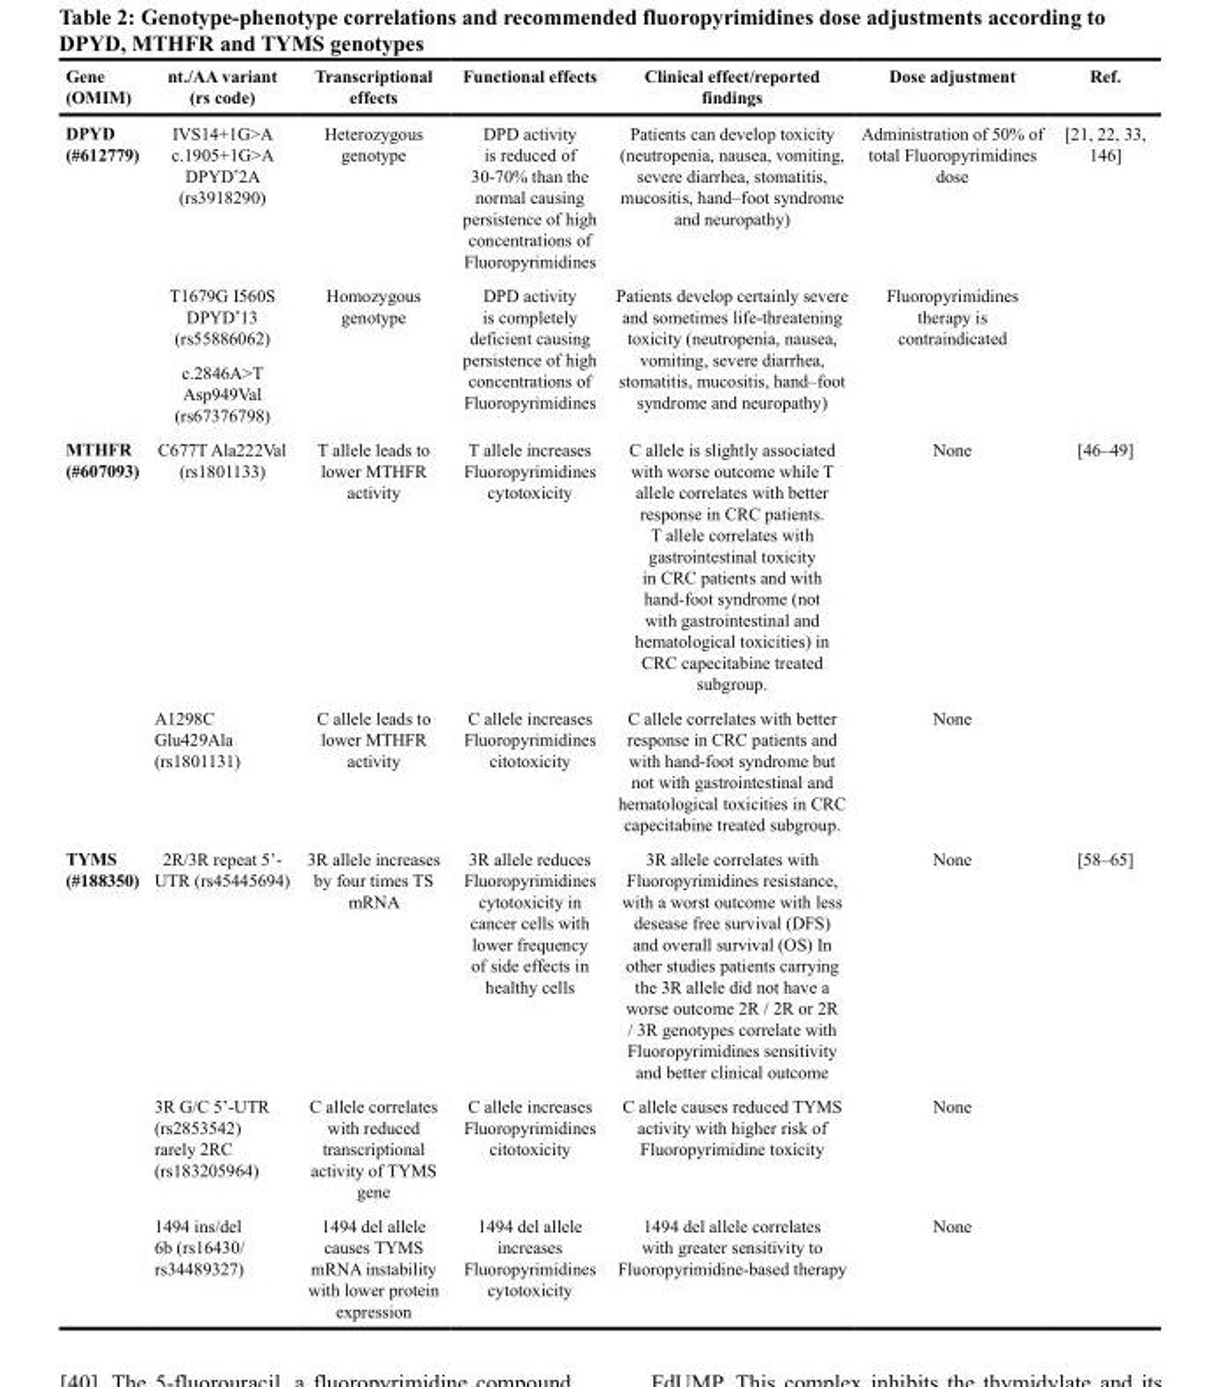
<table><thead><tr><td>Gene (OMIM)</td><td>nt./AA variant (rs code)</td><td>Transcriptional effects</td><td>Functional effects</td><td>Clinical effect/reported findings</td><td>Dose adjustment</td><td>Ref.</td></tr></thead><tbody><tr><td rowspan="3">DPYD (#612779)</td><td>IVS14+1G&gt;A c.1905+1G&gt;A DPYD*2A (rs3918290)</td><td>Heterozygous genotype</td><td>DPD activity is reduced of 30-70% than the normal causing persistence of high concentrations of Fluoropyrimidines</td><td>Patients can develop toxicity (neutropenia, nausea, vomiting, severe diarrhea, stomatitis, mucositis, hand–foot syndrome and neuropathy)</td><td>Administration of 50% of total Fluoropyrimidines dose</td><td rowspan="3">[21, 22, 33, 146]</td></tr><tr><td>T1679G I560S DPYD*13 (rs55886062)</td><td rowspan="2">Homozygous genotype</td><td rowspan="2">DPD activity is completely deficient causing persistence of high concentrations of Fluoropyrimidines</td><td rowspan="2">Patients develop certainly severe and sometimes life-threatening toxicity (neutropenia, nausea, vomiting, severe diarrhea, stomatitis, mucositis, hand–foot syndrome and neuropathy)</td><td rowspan="2">Fluoropyrimidines therapy is contraindicated</td></tr><tr><td>c.2846A&gt;T Asp949Val (rs67376798)</td></tr><tr><td rowspan="2">MTHFR (#607093)</td><td>C677T Ala222Val (rs1801133)</td><td>T allele leads to lower MTHFR activity</td><td>T allele increases Fluoropyrimidines cytotoxicity</td><td>C allele is slightly associated with worse outcome while T allele correlates with better response in CRC patients. T allele correlates with gastrointestinal toxicity in CRC patients and with hand-foot syndrome (not with gastrointestinal and hematological toxicities) in CRC capecitabine treated subgroup.</td><td>None</td><td rowspan="2">[46–49]</td></tr><tr><td>A1298C Glu429Ala (rs1801131)</td><td>C allele leads to lower MTHFR activity</td><td>C allele increases Fluoropyrimidines citotoxicity</td><td>C allele correlates with better response in CRC patients and with hand-foot syndrome but not with gastrointestinal and hematological toxicities in CRC capecitabine treated subgroup.</td><td>None</td></tr><tr><td rowspan="3">TYMS (#188350)</td><td>2R/3R repeat 5’- UTR (rs45445694)</td><td>3R allele increases by four times TS mRNA</td><td>3R allele reduces Fluoropyrimidines cytotoxicity in cancer cells with lower frequency of side effects in healthy cells</td><td>3R allele correlates with Fluoropyrimidines resistance, with a worst outcome with less desease free survival (DFS) and overall survival (OS) In other studies patients carrying the 3R allele did not have a worse outcome 2R / 2R or 2R / 3R genotypes correlate with Fluoropyrimidines sensitivity and better clinical outcome</td><td>None</td><td rowspan="3">[58–65]</td></tr><tr><td>3R G/C 5’-UTR (rs2853542) rarely 2RC (rs183205964)</td><td>C allele correlates with reduced transcriptional activity of TYMS gene</td><td>C allele increases Fluoropyrimidines citotoxicity</td><td>C allele causes reduced TYMS activity with higher risk of Fluoropyrimidine toxicity</td><td>None</td></tr><tr><td>1494 ins/del 6b (rs16430/ rs34489327)</td><td>1494 del allele causes TYMS mRNA instability with lower protein expression</td><td>1494 del allele increases Fluoropyrimidines cytotoxicity</td><td>1494 del allele correlates with greater sensitivity to Fluoropyrimidine-based therapy</td><td>None</td></tr></tbody></table>